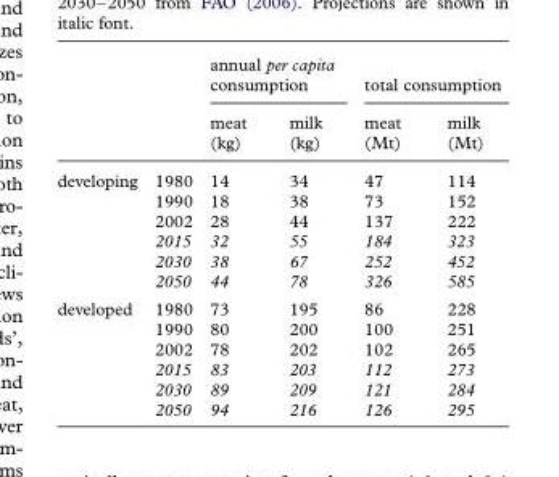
<table><thead><tr><td rowspan="2"></td><td rowspan="2"></td><td colspan="2">annual per capita consumption</td><td colspan="2">total consumption</td></tr><tr><td>meat (kg)</td><td>milk (kg)</td><td>meat (Mt)</td><td>milk (Mt)</td></tr></thead><tbody><tr><td rowspan="6">developing</td><td>1980</td><td>14</td><td>34</td><td>47</td><td>114</td></tr><tr><td>1990</td><td>18</td><td>38</td><td>73</td><td>152</td></tr><tr><td>2002</td><td>28</td><td>44</td><td>137</td><td>222</td></tr><tr><td>2015</td><td>32</td><td>55</td><td>184</td><td>323</td></tr><tr><td>2030</td><td>38</td><td>67</td><td>252</td><td>452</td></tr><tr><td>2050</td><td>44</td><td>78</td><td>326</td><td>585</td></tr><tr><td rowspan="6">developed</td><td>1980</td><td>73</td><td>195</td><td>86</td><td>228</td></tr><tr><td>1990</td><td>80</td><td>200</td><td>100</td><td>251</td></tr><tr><td>2002</td><td>78</td><td>202</td><td>102</td><td>265</td></tr><tr><td>2015</td><td>83</td><td>203</td><td>112</td><td>273</td></tr><tr><td>2030</td><td>89</td><td>209</td><td>121</td><td>284</td></tr><tr><td>2050</td><td>94</td><td>216</td><td>126</td><td>295</td></tr></tbody></table>